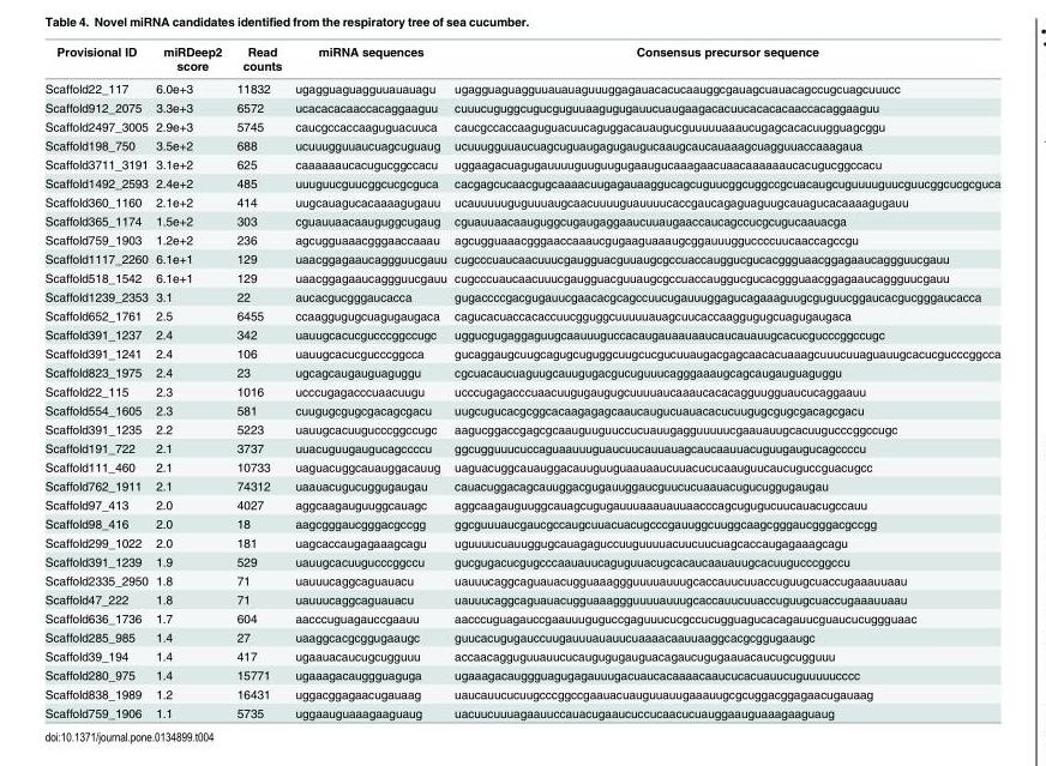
<table><thead><tr><td>Provisional ID</td><td>miRDeep2 score</td><td>Read counts</td><td>miRNA sequences</td><td>Consensus precursor sequence</td></tr></thead><tbody><tr><td>Scaffold22_117</td><td>6.0e+3</td><td>11832</td><td>ugagguaguagguuauauagu</td><td>ugagguaguagguuauauaguuuggagauacacucaauggcgauagcuauacagccugcuagcuuucc</td></tr><tr><td>Scaffold912_2075</td><td>3.3e+3</td><td>6572</td><td>ucacacacaaccacaggaaguu</td><td>cuuucuguggcugucguguuaagugugauucuaugaagacacuucacacacaaccacaggaaguu</td></tr><tr><td>Scaffold2497_3005</td><td>2.9e+3</td><td>5745</td><td>caucgccaccaaguguacuuca</td><td>caucgccaccaaguguacuucaguggacauaugucguuuuuaaaucugagcacacuugguagcggu</td></tr><tr><td>Scaffold198_750</td><td>3.5e+2</td><td>688</td><td>ucuuugguuaucuagcuguaug</td><td>ucuuugguuaucuagcuguaugagugaugucaaugcaucauaaagcuagguuaccaaagaua</td></tr><tr><td>Scaffold3711_3191</td><td>3.1e+2</td><td>625</td><td>caaaaaaucacugucggccacu</td><td>uggaagacuagugauuuuguuguugugaaugucaaagaacuaacaaaaaaucacugucggccacu</td></tr><tr><td>Scaffold1492_2593</td><td>2.4e+2</td><td>485</td><td>uuuguucguucggcucgcguca</td><td>cacgagcucaacgugcaaaacuugagauaaggucagcuguucggcuggccgcuacaugcuguuuuguucguucggcucgcguca</td></tr><tr><td>Scaffold360_1160</td><td>2.1e+2</td><td>414</td><td>uugcauagucacaaaagugauu</td><td>ucauuuuuguguuuaugcaacuuuuguauuuucaccgaucagaguaguugcauagucacaaaagugauu</td></tr><tr><td>Scaffold365_1174</td><td>1.5e+2</td><td>303</td><td>cguauuaacaauguggcugaug</td><td>cguauuaacaauguggcugaugaggaaucuuaugaaccaucagccucgcugucaauacga</td></tr><tr><td>Scaffold759_1903</td><td>1.2e+2</td><td>236</td><td>agcugguaaacgggaaccaaau</td><td>agcugguaaacgggaaccaaaucgugaaguaaaugcggauuugguccccuucaaccagccgu</td></tr><tr><td>Scaffold1117_2260</td><td>6.1e+1</td><td>129</td><td>uaacggagaaucaggguucgauu</td><td>cugcccuaucaacuuucgaugguacguuaugcgccuaccauggucgucacggguaacggagaaucaggguucgauu</td></tr><tr><td>Scaffold518_1542</td><td>6.1e+1</td><td>129</td><td>uaacggagaaucaggguucgauu</td><td>cugcccuaucaacuuucgaugguacguuaugcgccuaccauggucgucacggguaacggagaaucaggguucgauu</td></tr><tr><td>Scaffold1239_2353</td><td>3.1</td><td>22</td><td>aucacgucgggaucacca</td><td>gugaccccgacgugauucgaacacgcagccuucugauuuggagucagaaaguugcguguucggaucacgucgggaucacca</td></tr><tr><td>Scaffold652_1761</td><td>2.5</td><td>6455</td><td>ccaaggugugcuagugaugaca</td><td>cagucacuaccacaccuucgguggcuuuuuauagcuucaccaaggugugcuagugaugaca</td></tr><tr><td>Scaffold391_1237</td><td>2.4</td><td>342</td><td>uauugcacucgucccggccugc</td><td>uggucgugaggaguugcaauuuguccacaugauaauaaucaucauauugcacucgucccggccugc</td></tr><tr><td>Scaffold391_1241</td><td>2.4</td><td>106</td><td>uauugcacucgucccggcca</td><td>gucaggaugcuugcagugcuguggcuugcucgucuuaugacgagcaacacuaaagcuuucuuaguauugcacucgucccggcca</td></tr><tr><td>Scaffold823_1975</td><td>2.4</td><td>23</td><td>ugcagcaugauguaguggu</td><td>cgcuacaucuaguugcauugugacgucuguuucagggaaaugcagcaugauguaguggu</td></tr><tr><td>Scaffold22_115</td><td>2.3</td><td>1016</td><td>ucccugagacccuaacuugu</td><td>ucccugagacccuaacuugugaugugcuuuuaucaaaucacacagguugguaucucaggaauu</td></tr><tr><td>Scaffold554_1605</td><td>2.3</td><td>581</td><td>cuugugcgugcgacagcgacu</td><td>uugcugucacgcggcacaagagagcaaucaugucuauacacucuugugcgugcgacagcgacu</td></tr><tr><td>Scaffold391_1235</td><td>2.2</td><td>5223</td><td>uauugcacuugucccggccugc</td><td>aagucggaccgagcgcaauguuguuccucuauugagguuuuucgaauauugcacuugucccggccugc</td></tr><tr><td>Scaffold191_722</td><td>2.1</td><td>3737</td><td>uuacuguugaugucagccccu</td><td>ggcugguuucuccaguaauuuguaucuucauuauagcaucaauuacuguugaugucagccccu</td></tr><tr><td>Scaffold111_460</td><td>2.1</td><td>10733</td><td>uaguacuggcauauggacauug</td><td>uaguacuggcauauggacauuguuguaauaaucuuacucucaauguucaucuguccguacugcc</td></tr><tr><td>Scaffold762_1911</td><td>2.1</td><td>74312</td><td>uaauacugucuggugaugau</td><td>cauacuggacagcauuggacgugauuggaucguucucuaauacugucuggugaugau</td></tr><tr><td>Scaffold97_413</td><td>2.0</td><td>4027</td><td>aggcaagauguuggcauagc</td><td>aggcaagauguuggcauagcugugauuuaaauauuaacccagcugugucuucauacugccauu</td></tr><tr><td>Scaffold98_416</td><td>2.0</td><td>18</td><td>aagcgggaucgggacgccgg</td><td>ggcguuuaucgaucgccaugcuuacuacugcccgauuggcuuggcaagcgggaucgggacgccgg</td></tr><tr><td>Scaffold299_1022</td><td>2.0</td><td>181</td><td>uagcaccaugagaaagcagu</td><td>uguuuucuauuggugcauagaguccuuguuuuacuucuucuagcaccaugagaaagcagu</td></tr><tr><td>Scaffold391_1239</td><td>1.9</td><td>529</td><td>uauugcacuugucccggccu</td><td>gucgugacucgugcccaauauucaguguuacugcacaucaauauugcacuugucccggccu</td></tr><tr><td>Scaffold2335_2950</td><td>1.8</td><td>71</td><td>uauuucaggcaguauacu</td><td>uauuucaggcaguauacugguaaaggguuuuauuugcaccauucuuaccuguugcuaccugaaauuaau</td></tr><tr><td>Scaffold47_222</td><td>1.8</td><td>71</td><td>uauuucaggcaguauacu</td><td>uauuucaggcaguauacugguaaaggguuuuauuugcaccauucuuaccuguugcuaccugaaauuaau</td></tr><tr><td>Scaffold636_1736</td><td>1.7</td><td>604</td><td>aacccuguagauccgaauu</td><td>aacccuguagauccgaauuuguguccgaguuucucgccucugguagucacagauucguaucucuggguaac</td></tr><tr><td>Scaffold285_985</td><td>1.4</td><td>27</td><td>uaaggcacgcggugaaugc</td><td>guucacugugauccuugauuuauauucuaaaacaauuaaggcacgcggugaaugc</td></tr><tr><td>Scaffold39_194</td><td>1.4</td><td>417</td><td>ugaauacaucugcugguuu</td><td>accaacagguguuauucucaugugugauguacagaucugugaauacaucugcugguuu</td></tr><tr><td>Scaffold280_975</td><td>1.4</td><td>15771</td><td>ugaaagacauggguaguga</td><td>ugaaagacauggguagugagauuugacuaucacaaaacaaucucacuauucuguuuuucccc</td></tr><tr><td>Scaffold838_1989</td><td>1.2</td><td>16431</td><td>uggacggagaacugauaag</td><td>uaucauucucuugcccggccgaauacuauguuauugaaauugcgcuggacggagaacugauaag</td></tr><tr><td>Scaffold759_1906</td><td>1.1</td><td>5735</td><td>uggaauguaaagaaguaug</td><td>uacuucuuuagaauuccauacugaaucuccucaacucuauggaauguaaagaaguaug</td></tr></tbody></table>